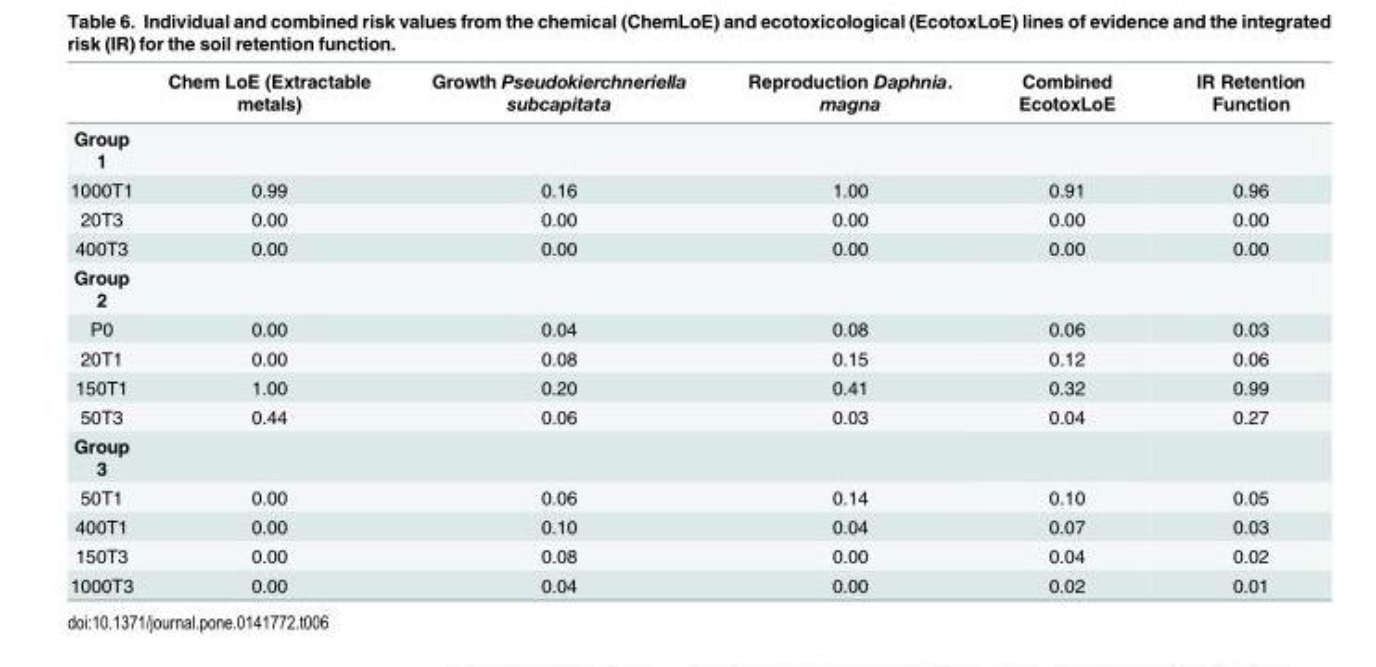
<table><thead><tr><td></td><td>Chem LoE (Extractable metals)</td><td>Growth Pseudokierchneriella subcapitata</td><td>Reproduction Daphnia. magna</td><td>Combined EcotoxLoE</td><td>IR Retention Function</td></tr></thead><tbody><tr><td colspan="6">Group 1</td></tr><tr><td>1000T1</td><td>0.99</td><td>0.16</td><td>1.00</td><td>0.91</td><td>0.96</td></tr><tr><td>20T3</td><td>0.00</td><td>0.00</td><td>0.00</td><td>0.00</td><td>0.00</td></tr><tr><td>400T3</td><td>0.00</td><td>0.00</td><td>0.00</td><td>0.00</td><td>0.00</td></tr><tr><td colspan="6">Group 2</td></tr><tr><td>P0</td><td>0.00</td><td>0.04</td><td>0.08</td><td>0.06</td><td>0.03</td></tr><tr><td>20T1</td><td>0.00</td><td>0.08</td><td>0.15</td><td>0.12</td><td>0.06</td></tr><tr><td>150T1</td><td>1.00</td><td>0.20</td><td>0.41</td><td>0.32</td><td>0.99</td></tr><tr><td>50T3</td><td>0.44</td><td>0.06</td><td>0.03</td><td>0.04</td><td>0.27</td></tr><tr><td colspan="6">Group 3</td></tr><tr><td>50T1</td><td>0.00</td><td>0.06</td><td>0.14</td><td>0.10</td><td>0.05</td></tr><tr><td>400T1</td><td>0.00</td><td>0.10</td><td>0.04</td><td>0.07</td><td>0.03</td></tr><tr><td>150T3</td><td>0.00</td><td>0.08</td><td>0.00</td><td>0.04</td><td>0.02</td></tr><tr><td>1000T3</td><td>0.00</td><td>0.04</td><td>0.00</td><td>0.02</td><td>0.01</td></tr></tbody></table>